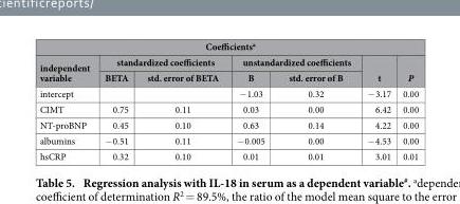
<table><thead><tr><td colspan="7">Coefficients<sup>a</sup></td></tr><tr><td rowspan="2">independent variable</td><td colspan="2">standardized coefficients</td><td colspan="2">unstandardized coefficients</td><td rowspan="2">t</td><td rowspan="2">P</td></tr><tr><td>BETA</td><td>std. error of BETA</td><td>B</td><td>std. error of B</td></tr></thead><tbody><tr><td>intercept</td><td></td><td></td><td>− 1.03</td><td>0.32</td><td>− 3.17</td><td>0.00</td></tr><tr><td>CIMT</td><td>0.75</td><td>0.11</td><td>0.03</td><td>0.00</td><td>6.42</td><td>0.00</td></tr><tr><td>NT-proBNP</td><td>0.45</td><td>0.10</td><td>0.63</td><td>0.14</td><td>4.22</td><td>0.00</td></tr><tr><td>albumins</td><td>− 0.51</td><td>0.11</td><td>− 0.005</td><td>0.00</td><td>− 4.53</td><td>0.00</td></tr><tr><td>hsCRP</td><td>0.32</td><td>0.10</td><td>0.01</td><td>0.01</td><td>3.01</td><td>0.01</td></tr></tbody></table>